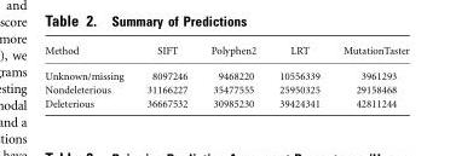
<table><thead><tr><td>Method</td><td>SIFT</td><td>Polyphen2</td><td>LRT</td><td>MutationTaster</td></tr></thead><tbody><tr><td>Unknown/missing</td><td>8097246</td><td>9468220</td><td>10556339</td><td>3961293</td></tr><tr><td>Nondeleterious</td><td>31166227</td><td>35477555</td><td>25950325</td><td>29158468</td></tr><tr><td>Deleterious</td><td>36667532</td><td>30985230</td><td>39424341</td><td>42811244</td></tr></tbody></table>